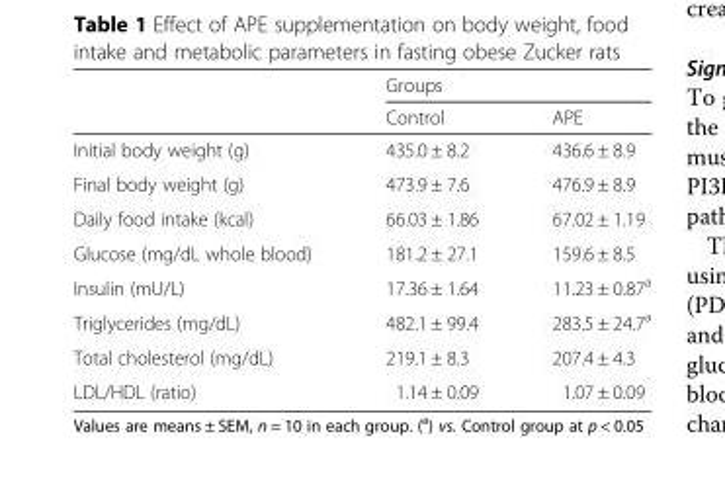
<table><thead><tr><td rowspan="2"></td><td colspan="2">Groups</td></tr><tr><td>Control</td><td>APE</td></tr></thead><tbody><tr><td>Initial body weight (g)</td><td>435.0 ± 8.2</td><td>436.6 ± 8.9</td></tr><tr><td>Final body weight (g)</td><td>473.9 ± 7.6</td><td>476.9 ± 8.9</td></tr><tr><td>Daily food intake (kcal)</td><td>66.03 ± 1.86</td><td>67.02 ± 1.19</td></tr><tr><td>Glucose (mg/dL whole blood)</td><td>181.2 ± 27.1</td><td>159.6 ± 8.5</td></tr><tr><td>Insulin (mU/L)</td><td>17.36 ± 1.64</td><td>11.23 ± 0.87<sup>a</sup></td></tr><tr><td>Triglycerides (mg/dL)</td><td>482.1 ± 99.4</td><td>283.5 ± 24.7<sup>a</sup></td></tr><tr><td>Total cholesterol (mg/dL)</td><td>219.1 ± 8.3</td><td>207.4 ± 4.3</td></tr><tr><td>LDL/HDL (ratio)</td><td>1.14 ± 0.09</td><td>1.07 ± 0.09</td></tr></tbody></table>